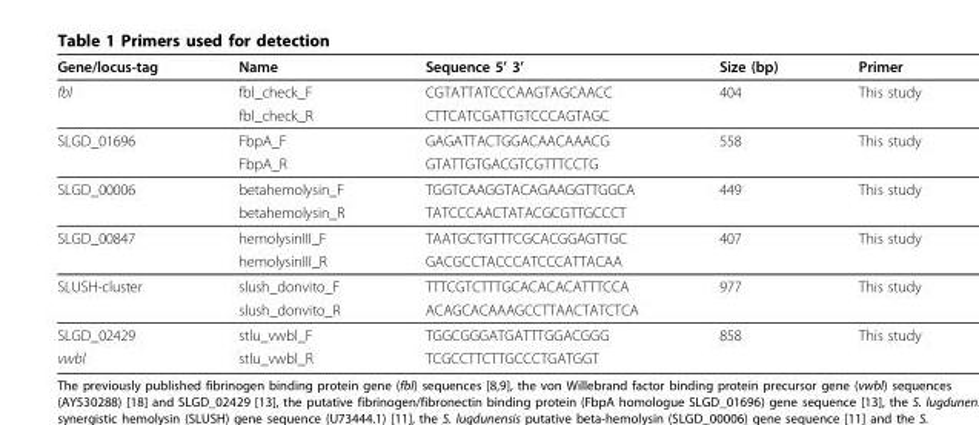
<table><thead><tr><td>Gene/locus-tag</td><td>Name</td><td>Sequence 5’ 3’</td><td>Size (bp)</td><td>Primer</td></tr></thead><tbody><tr><td rowspan="2">fbl</td><td>fbl_check_F</td><td>CGTATTATCCCAAGTAGCAACC</td><td>404</td><td>This study</td></tr><tr><td>fbl_check_R</td><td>CTTCATCGATTGTCCCAGTAGC</td><td></td><td></td></tr><tr><td rowspan="2">SLGD_01696</td><td>FbpA_F</td><td>GAGATTACTGGACAACAAACG</td><td>558</td><td>This study</td></tr><tr><td>FbpA_R</td><td>GTATTGTGACGTCGTTTCCTG</td><td></td><td></td></tr><tr><td rowspan="2">SLGD_00006</td><td>betahemolysin_F</td><td>TGGTCAAGGTACAGAAGGTTGGCA</td><td>449</td><td>This study</td></tr><tr><td>betahemolysin_R</td><td>TATCCCAACTATACGCGTTGCCCT</td><td></td><td></td></tr><tr><td rowspan="2">SLGD_00847</td><td>hemolysinIII_F</td><td>TAATGCTGTTTCGCACGGAGTTGC</td><td>407</td><td>This study</td></tr><tr><td>hemolysinIII_R</td><td>GACGCCTACCCATCCCATTACAA</td><td></td><td></td></tr><tr><td rowspan="2">SLUSH-cluster</td><td>slush_donvito_F</td><td>TTTCGTCTTTGCACACACATTTCCA</td><td>977</td><td>This study</td></tr><tr><td>slush_donvito_R</td><td>ACAGCACAAAGCCTTAACTATCTCA</td><td></td><td></td></tr><tr><td>SLGD_02429</td><td>stlu_vwbl_F</td><td>TGGCGGGATGATTTGGACGGG</td><td>858</td><td>This study</td></tr><tr><td>vwbl</td><td>stlu_vwbl_R</td><td>TCGCCTTCTTGCCCTGATGGT</td><td></td><td></td></tr></tbody></table>